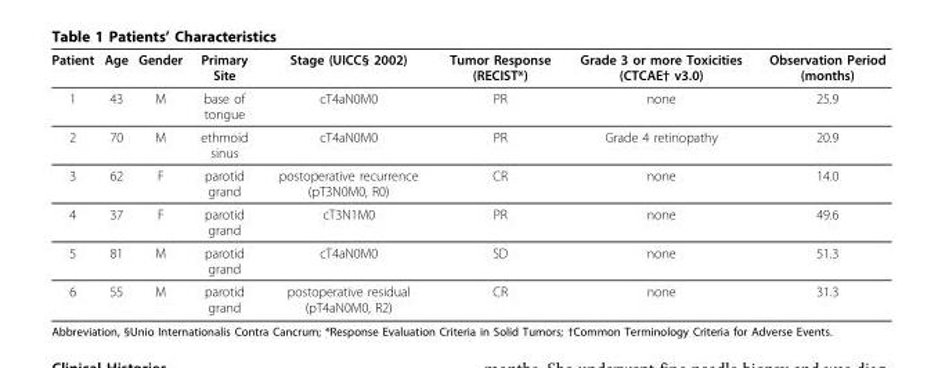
<table><thead><tr><td>Patient</td><td>Age</td><td>Gender</td><td>Primary Site</td><td>Stage (UICC§ 2002)</td><td>Tumor Response (RECIST*)</td><td>Grade 3 or more Toxicities (CTCAE† v3.0)</td><td>Observation Period (months)</td></tr></thead><tbody><tr><td>1</td><td>43</td><td>M</td><td>base of tongue</td><td>cT4aN0M0</td><td>PR</td><td>none</td><td>25.9</td></tr><tr><td>2</td><td>70</td><td>M</td><td>ethmoid sinus</td><td>cT4aN0M0</td><td>PR</td><td>Grade 4 retinopathy</td><td>20.9</td></tr><tr><td>3</td><td>62</td><td>F</td><td>parotid grand</td><td>postoperative recurrence (pT3N0M0, R0)</td><td>CR</td><td>none</td><td>14.0</td></tr><tr><td>4</td><td>37</td><td>F</td><td>parotid grand</td><td>cT3N1M0</td><td>PR</td><td>none</td><td>49.6</td></tr><tr><td>5</td><td>81</td><td>M</td><td>parotid grand</td><td>cT4aN0M0</td><td>SD</td><td>none</td><td>51.3</td></tr><tr><td>6</td><td>55</td><td>M</td><td>parotid grand</td><td>postoperative residual (pT4aN0M0, R2)</td><td>CR</td><td>none</td><td>31.3</td></tr></tbody></table>